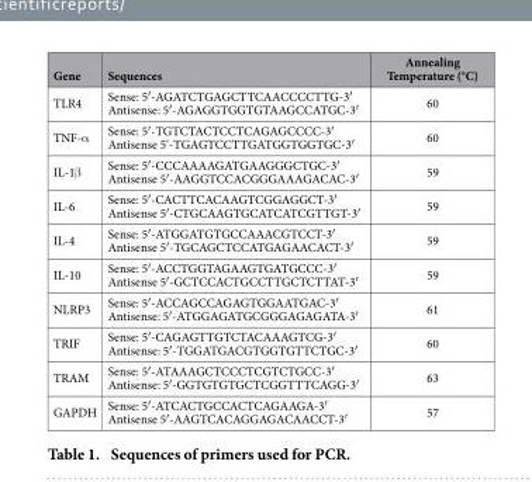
<table><thead><tr><td>Gene</td><td>Sequences</td><td>Annealing Temperature (°C)</td></tr></thead><tbody><tr><td>TLR4</td><td>Sense: 5′ -AGATCTGAGCTTCAACCCCTTG-3′ Antisense: 5′ -AGAGGTGGTGTAAGCCATGC-3′</td><td>60</td></tr><tr><td>TNF-α</td><td>Sense: 5′ -TGTCTACTCCTCAGAGCCCC-3′ Antisense 5‘-TGAGTCCTTGATGGTGGTGC-3′</td><td>60</td></tr><tr><td>IL-1β</td><td>Sense: 5′ -CCCAAAAGATGAAGGGCTGC-3′ Antisense 5′ -AAGGTCCACGGGAAAGACAC-3′</td><td>59</td></tr><tr><td>IL-6</td><td>Sense: 5′ -CACTTCACAAGTCGGAGGCT-3′ Antisense 5′ -CTGCAAGTGCATCATCGTTGT-3′</td><td>59</td></tr><tr><td>IL-4</td><td>Sense: 5′ -ATGGATGTGCCAAACGTCCT-3′ Antisense 5′ -TGCAGCTCCATGAGAACACT-3′</td><td>59</td></tr><tr><td>IL-10</td><td>Sense: 5′ -ACCTGGTAGAAGTGATGCCC-3′ Antisense 5′ -GCTCCACTGCCTTGCTCTTAT-3′</td><td>59</td></tr><tr><td>NLRP3</td><td>Sense: 5′ -ACCAGCCAGAGTGGAATGAC-3′ Antisense: 5′ -ATGGAGATGCGGGAGAGATA-3′</td><td>61</td></tr><tr><td>TRIF</td><td>Sense: 5′ -CAGAGTTGTCTACAAAGTCG-3′ Antisense: 5′ -TGGATGACGTGGTGTTCTGC-3′</td><td>60</td></tr><tr><td>TRAM</td><td>Sense: 5′ -ATAAAGCTCCCTCGTCTGCC-3′ Antisense: 5′ -GGTGTGTGCTCGGTTTCAGG-3′</td><td>63</td></tr><tr><td>GAPDH</td><td>Sense: 5′ -ATCACTGCCACTCAGAAGA-3′ Antisense 5′ -AAGTCACAGGAGACAACCT-3′</td><td>57</td></tr></tbody></table>